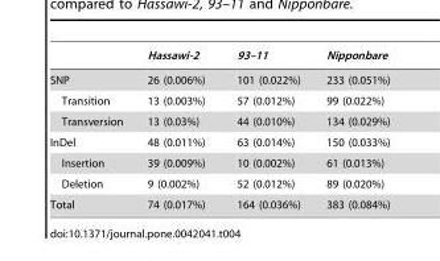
<table><thead><tr><td></td><td>Hassawi-2</td><td>93–11</td><td>Nipponbare</td></tr></thead><tbody><tr><td>SNP</td><td>26 (0.006%)</td><td>101 (0.022%)</td><td>233 (0.051%)</td></tr><tr><td>Transition</td><td>13 (0.003%)</td><td>57 (0.012%)</td><td>99 (0.022%)</td></tr><tr><td>Transversion</td><td>13 (0.03%)</td><td>44 (0.010%)</td><td>134 (0.029%)</td></tr><tr><td>InDel</td><td>48 (0.011%)</td><td>63 (0.014%)</td><td>150 (0.033%)</td></tr><tr><td>Insertion</td><td>39 (0.009%)</td><td>10 (0.002%)</td><td>61 (0.013%)</td></tr><tr><td>Deletion</td><td>9 (0.002%)</td><td>52 (0.012%)</td><td>89 (0.020%)</td></tr><tr><td>Total</td><td>74 (0.017%)</td><td>164 (0.036%)</td><td>383 (0.084%)</td></tr></tbody></table>